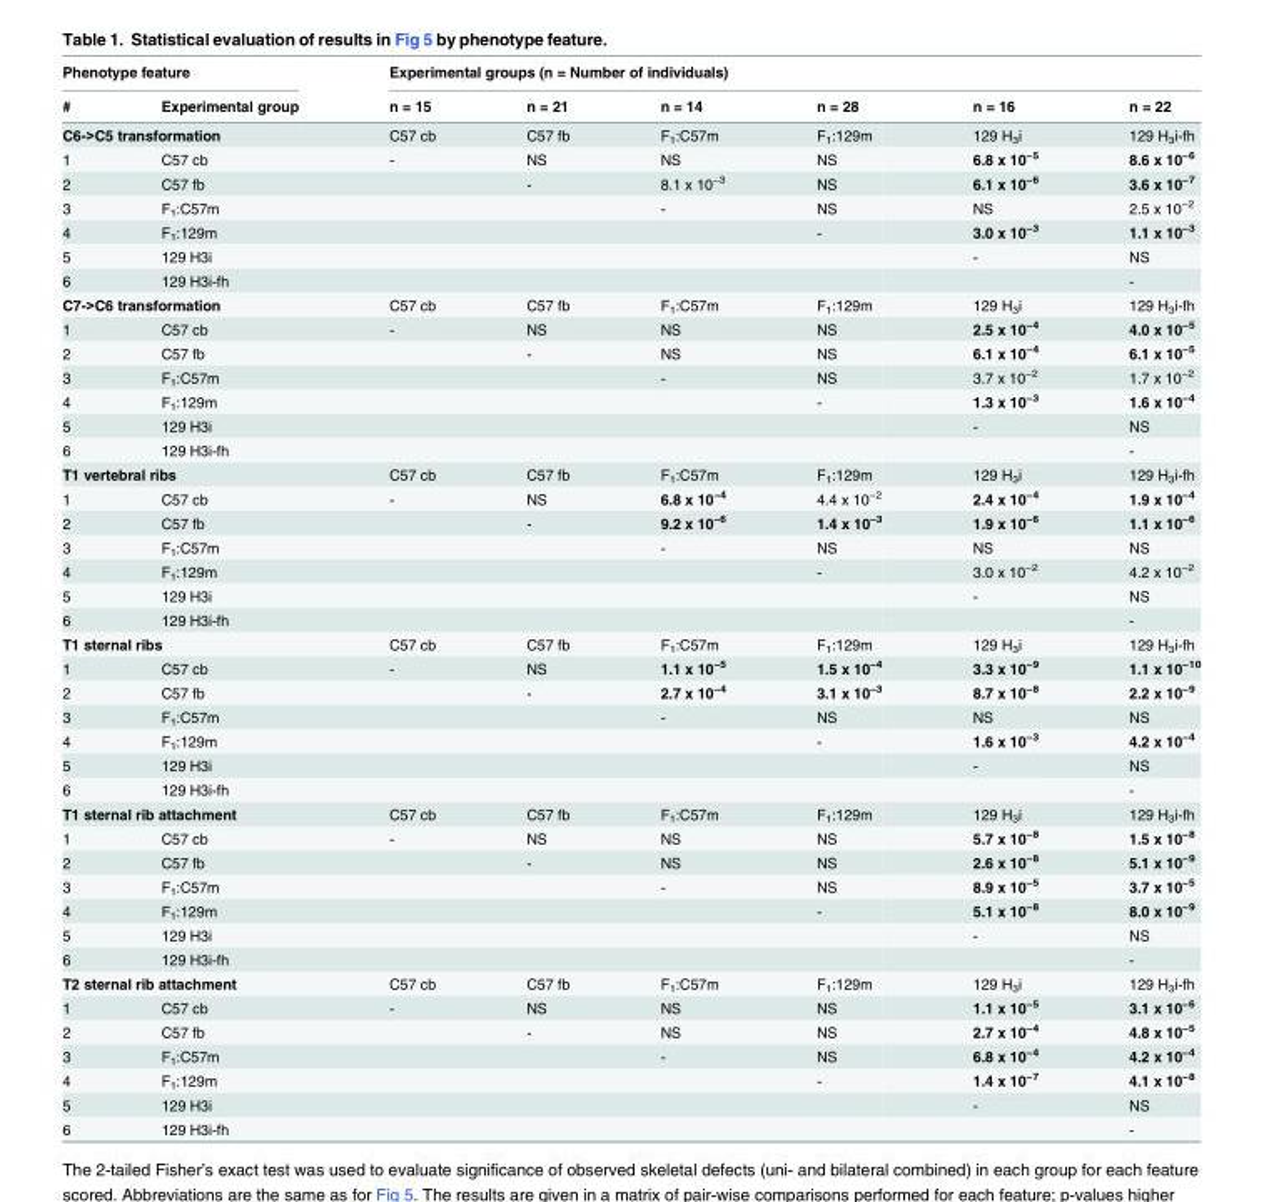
<table><thead><tr><td colspan="2">Phenotype feature</td><td colspan="6">Experimental groups (n = Number of individuals)</td></tr><tr><td>#</td><td>Experimental group</td><td>n = 15</td><td>n = 21</td><td>n = 14</td><td>n = 28</td><td>n = 16</td><td>n = 22</td></tr></thead><tbody><tr><td colspan="2">C6-&gt;C5 transformation</td><td>C57 cb</td><td>C57 fb</td><td>F<sub>1</sub>:C57m</td><td>F<sub>1</sub>:129m</td><td>129 H<sub>3</sub>i</td><td>129 H<sub>3</sub>i-fh</td></tr><tr><td>1</td><td>C57 cb</td><td>-</td><td>NS</td><td>NS</td><td>NS</td><td>6.8 x 10<sup>−5</sup></td><td>8.6 x 10<sup>−6</sup></td></tr><tr><td>2</td><td>C57 fb</td><td></td><td>-</td><td>8.1 x 10<sup>−3</sup></td><td>NS</td><td>6.1 x 10<sup>−6</sup></td><td>3.6 x 10<sup>−7</sup></td></tr><tr><td>3</td><td>F<sub>1</sub>:C57m</td><td></td><td></td><td>-</td><td>NS</td><td>NS</td><td>2.5 x 10<sup>−2</sup></td></tr><tr><td>4</td><td>F<sub>1</sub>:129m</td><td></td><td></td><td></td><td>-</td><td>3.0 x 10<sup>−3</sup></td><td>1.1 x 10<sup>−3</sup></td></tr><tr><td>5</td><td>129 H3i</td><td></td><td></td><td></td><td></td><td>-</td><td>NS</td></tr><tr><td>6</td><td>129 H3i-fh</td><td></td><td></td><td></td><td></td><td></td><td>-</td></tr><tr><td colspan="2">C7-&gt;C6 transformation</td><td>C57 cb</td><td>C57 fb</td><td>F<sub>1</sub>:C57m</td><td>F<sub>1</sub>:129m</td><td>129 H<sub>3</sub>i</td><td>129 H<sub>3</sub>i-fh</td></tr><tr><td>1</td><td>C57 cb</td><td>-</td><td>NS</td><td>NS</td><td>NS</td><td>2.5 x 10<sup>−4</sup></td><td>4.0 x 10<sup>−5</sup></td></tr><tr><td>2</td><td>C57 fb</td><td></td><td>-</td><td>NS</td><td>NS</td><td>6.1 x 10<sup>−4</sup></td><td>6.1 x 10<sup>−5</sup></td></tr><tr><td>3</td><td>F<sub>1</sub>:C57m</td><td></td><td></td><td>-</td><td>NS</td><td>3.7 x 10<sup>−2</sup></td><td>1.7 x 10<sup>−2</sup></td></tr><tr><td>4</td><td>F<sub>1</sub>:129m</td><td></td><td></td><td></td><td>-</td><td>1.3 x 10<sup>−3</sup></td><td>1.6 x 10<sup>−4</sup></td></tr><tr><td>5</td><td>129 H3i</td><td></td><td></td><td></td><td></td><td>-</td><td>NS</td></tr><tr><td>6</td><td>129 H3i-fh</td><td></td><td></td><td></td><td></td><td></td><td>-</td></tr><tr><td colspan="2">T1 vertebral ribs</td><td>C57 cb</td><td>C57 fb</td><td>F<sub>1</sub>:C57m</td><td>F<sub>1</sub>:129m</td><td>129 H<sub>3</sub>i</td><td>129 H<sub>3</sub>i-fh</td></tr><tr><td>1</td><td>C57 cb</td><td>-</td><td>NS</td><td>6.8 x 10<sup>−4</sup></td><td>4.4 x 10<sup>−2</sup></td><td>2.4 x 10<sup>−4</sup></td><td>1.9 x 10<sup>−4</sup></td></tr><tr><td>2</td><td>C57 fb</td><td></td><td>-</td><td>9.2 x 10<sup>−6</sup></td><td>1.4 x 10<sup>−3</sup></td><td>1.9 x 10<sup>−6</sup></td><td>1.1 x 10<sup>−6</sup></td></tr><tr><td>3</td><td>F<sub>1</sub>:C57m</td><td></td><td></td><td>-</td><td>NS</td><td>NS</td><td>NS</td></tr><tr><td>4</td><td>F<sub>1</sub>:129m</td><td></td><td></td><td></td><td>-</td><td>3.0 x 10<sup>−2</sup></td><td>4.2 x 10<sup>−2</sup></td></tr><tr><td>5</td><td>129 H3i</td><td></td><td></td><td></td><td></td><td>-</td><td>NS</td></tr><tr><td>6</td><td>129 H3i-fh</td><td></td><td></td><td></td><td></td><td></td><td>-</td></tr><tr><td colspan="2">T1 sternal ribs</td><td>C57 cb</td><td>C57 fb</td><td>F<sub>1</sub>:C57m</td><td>F<sub>1</sub>:129m</td><td>129 H<sub>3</sub>i</td><td>129 H<sub>3</sub>i-fh</td></tr><tr><td>1</td><td>C57 cb</td><td>-</td><td>NS</td><td>1.1 x 10<sup>−5</sup></td><td>1.5 x 10<sup>−4</sup></td><td>3.3 x 10<sup>−9</sup></td><td>1.1 x 10<sup>−10</sup></td></tr><tr><td>2</td><td>C57 fb</td><td></td><td>-</td><td>2.7 x 10<sup>−4</sup></td><td>3.1 x 10<sup>−3</sup></td><td>8.7 x 10<sup>−8</sup></td><td>2.2 x 10<sup>−9</sup></td></tr><tr><td>3</td><td>F<sub>1</sub>:C57m</td><td></td><td></td><td>-</td><td>NS</td><td>NS</td><td>NS</td></tr><tr><td>4</td><td>F<sub>1</sub>:129m</td><td></td><td></td><td></td><td>-</td><td>1.6 x 10<sup>−3</sup></td><td>4.2 x 10<sup>−4</sup></td></tr><tr><td>5</td><td>129 H3i</td><td></td><td></td><td></td><td></td><td>-</td><td>NS</td></tr><tr><td>6</td><td>129 H3i-fh</td><td></td><td></td><td></td><td></td><td></td><td>-</td></tr><tr><td colspan="2">T1 sternal rib attachment</td><td>C57 cb</td><td>C57 fb</td><td>F<sub>1</sub>:C57m</td><td>F<sub>1</sub>:129m</td><td>129 H<sub>3</sub>i</td><td>129 H<sub>3</sub>i-fh</td></tr><tr><td>1</td><td>C57 cb</td><td>-</td><td>NS</td><td>NS</td><td>NS</td><td>5.7 x 10<sup>−8</sup></td><td>1.5 x 10<sup>−8</sup></td></tr><tr><td>2</td><td>C57 fb</td><td></td><td>-</td><td>NS</td><td>NS</td><td>2.6 x 10<sup>−8</sup></td><td>5.1 x 10<sup>−9</sup></td></tr><tr><td>3</td><td>F<sub>1</sub>:C57m</td><td></td><td></td><td>-</td><td>NS</td><td>8.9 x 10<sup>−5</sup></td><td>3.7 x 10<sup>−5</sup></td></tr><tr><td>4</td><td>F<sub>1</sub>:129m</td><td></td><td></td><td></td><td>-</td><td>5.1 x 10<sup>−8</sup></td><td>8.0 x 10<sup>−9</sup></td></tr><tr><td>5</td><td>129 H3i</td><td></td><td></td><td></td><td></td><td>-</td><td>NS</td></tr><tr><td>6</td><td>129 H3i-fh</td><td></td><td></td><td></td><td></td><td></td><td>-</td></tr><tr><td colspan="2">T2 sternal rib attachment</td><td>C57 cb</td><td>C57 fb</td><td>F<sub>1</sub>:C57m</td><td>F<sub>1</sub>:129m</td><td>129 H<sub>3</sub>i</td><td>129 H<sub>3</sub>i-fh</td></tr><tr><td>1</td><td>C57 cb</td><td>-</td><td>NS</td><td>NS</td><td>NS</td><td>1.1 x 10<sup>−5</sup></td><td>3.1 x 10<sup>−6</sup></td></tr><tr><td>2</td><td>C57 fb</td><td></td><td>-</td><td>NS</td><td>NS</td><td>2.7 x 10<sup>−4</sup></td><td>4.8 x 10<sup>−5</sup></td></tr><tr><td>3</td><td>F<sub>1</sub>:C57m</td><td></td><td></td><td>-</td><td>NS</td><td>6.8 x 10<sup>−4</sup></td><td>4.2 x 10<sup>−4</sup></td></tr><tr><td>4</td><td>F<sub>1</sub>:129m</td><td></td><td></td><td></td><td>-</td><td>1.4 x 10<sup>−7</sup></td><td>4.1 x 10<sup>−8</sup></td></tr><tr><td>5</td><td>129 H3i</td><td></td><td></td><td></td><td></td><td>-</td><td>NS</td></tr><tr><td>6</td><td>129 H3i-fh</td><td></td><td></td><td></td><td></td><td></td><td>-</td></tr></tbody></table>